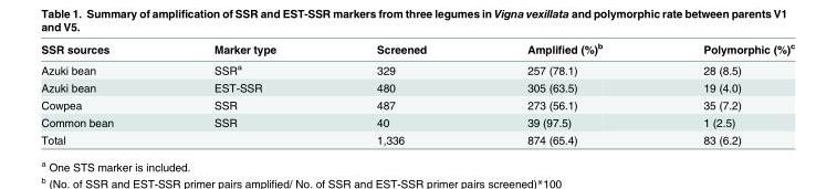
<table><thead><tr><td>SSR sources</td><td>Marker type</td><td>Screened</td><td>Amplified (%)<sup>b</sup></td><td>Polymorphic (%)<sup>c</sup></td></tr></thead><tbody><tr><td>Azuki bean</td><td>SSR<sup>a</sup></td><td>329</td><td>257 (78.1)</td><td>28 (8.5)</td></tr><tr><td>Azuki bean</td><td>EST-SSR</td><td>480</td><td>305 (63.5)</td><td>19 (4.0)</td></tr><tr><td>Cowpea</td><td>SSR</td><td>487</td><td>273 (56.1)</td><td>35 (7.2)</td></tr><tr><td>Common bean</td><td>SSR</td><td>40</td><td>39 (97.5)</td><td>1 (2.5)</td></tr><tr><td>Total</td><td></td><td>1,336</td><td>874 (65.4)</td><td>83 (6.2)</td></tr></tbody></table>